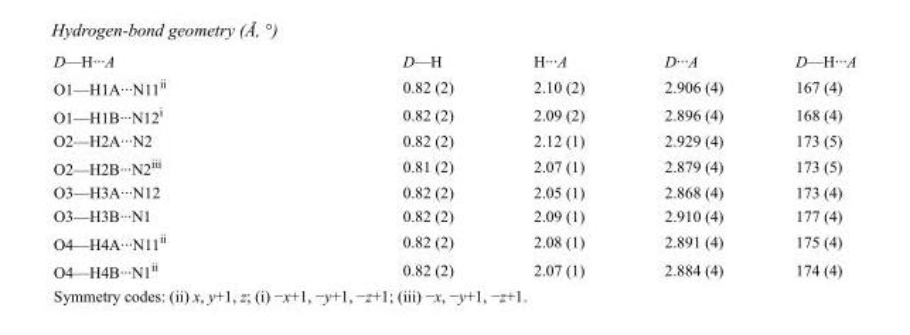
<table><tbody><tr><td>D—H···A</td><td>D—H</td><td>H···A</td><td>D···A</td><td>D—H···A</td></tr><tr><td>O1—H1A···N11<sup>ii</sup></td><td>0.82 (2)</td><td>2.10 (2)</td><td>2.906 (4)</td><td>167 (4)</td></tr><tr><td>O1—H1B···N12<sup>i</sup></td><td>0.82 (2)</td><td>2.09 (2)</td><td>2.896 (4)</td><td>168 (4)</td></tr><tr><td>O2—H2A···N2</td><td>0.82 (2)</td><td>2.12 (1)</td><td>2.929 (4)</td><td>173 (5)</td></tr><tr><td>O2—H2B···N2<sup>iii</sup></td><td>0.81 (2)</td><td>2.07 (1)</td><td>2.879 (4)</td><td>173 (5)</td></tr><tr><td>O3—H3A···N12</td><td>0.82 (2)</td><td>2.05 (1)</td><td>2.868 (4)</td><td>173 (4)</td></tr><tr><td>O3—H3B···N1</td><td>0.82 (2)</td><td>2.09 (1)</td><td>2.910 (4)</td><td>177 (4)</td></tr><tr><td>O4—H4A···N11<sup>ii</sup></td><td>0.82 (2)</td><td>2.08 (1)</td><td>2.891 (4)</td><td>175 (4)</td></tr><tr><td>O4—H4B···N1<sup>ii</sup></td><td>0.82 (2)</td><td>2.07 (1)</td><td>2.884 (4)</td><td>174 (4)</td></tr></tbody></table>